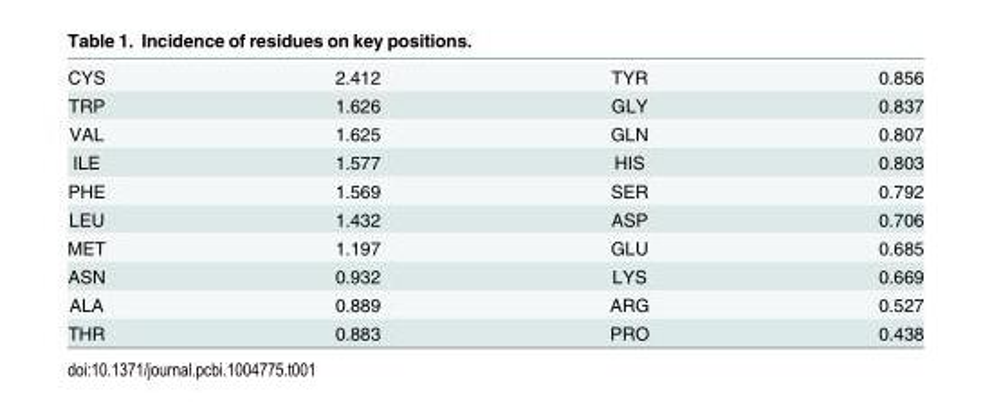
<table><tbody><tr><td>CYS</td><td>2.412</td><td>TYR</td><td>0.856</td></tr><tr><td>TRP</td><td>1.626</td><td>GLY</td><td>0.837</td></tr><tr><td>VAL</td><td>1.625</td><td>GLN</td><td>0.807</td></tr><tr><td>ILE</td><td>1.577</td><td>HIS</td><td>0.803</td></tr><tr><td>PHE</td><td>1.569</td><td>SER</td><td>0.792</td></tr><tr><td>LEU</td><td>1.432</td><td>ASP</td><td>0.706</td></tr><tr><td>MET</td><td>1.197</td><td>GLU</td><td>0.685</td></tr><tr><td>ASN</td><td>0.932</td><td>LYS</td><td>0.669</td></tr><tr><td>ALA</td><td>0.889</td><td>ARG</td><td>0.527</td></tr><tr><td>THR</td><td>0.883</td><td>PRO</td><td>0.438</td></tr></tbody></table>